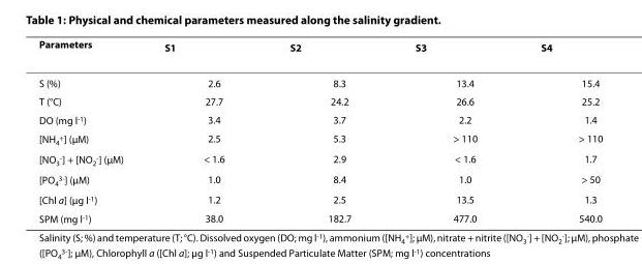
<table><thead><tr><td>Parameters</td><td>S<sub>1</sub></td><td>S<sub>2</sub></td><td>S<sub>3</sub></td><td>S<sub>4</sub></td></tr></thead><tbody><tr><td>S (%)</td><td>2.6</td><td>8.3</td><td>13.4</td><td>15.4</td></tr><tr><td>T (°C)</td><td>27.7</td><td>24.2</td><td>26.6</td><td>25.2</td></tr><tr><td>DO (mg l<sup>-1</sup>)</td><td>3.4</td><td>3.7</td><td>2.2</td><td>1.4</td></tr><tr><td>[NH<sub>4</sub><sup>+</sup>] (μM)</td><td>2.5</td><td>5.3</td><td>&gt; 110</td><td>&gt; 110</td></tr><tr><td>[NO<sub>3</sub><sup>-</sup>] + [NO<sub>2</sub><sup>-</sup>] (μM)</td><td>&lt; 1.6</td><td>2.9</td><td>&lt; 1.6</td><td>1.7</td></tr><tr><td>[PO<sub>4</sub><sup>3-</sup>] (μM)</td><td>1.0</td><td>8.4</td><td>1.0</td><td>&gt; 50</td></tr><tr><td>[Chl a] (μg l<sup>-1</sup>)</td><td>1.2</td><td>2.5</td><td>13.5</td><td>1.3</td></tr><tr><td>SPM (mg l<sup>-1</sup>)</td><td>38.0</td><td>182.7</td><td>477.0</td><td>540.0</td></tr></tbody></table>